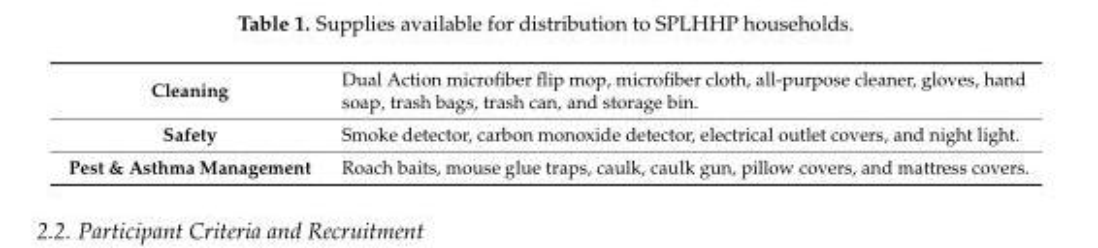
<table><tbody><tr><td>Cleaning</td><td>Dual Action microfiber flip mop, microfiber cloth, all-purpose cleaner, gloves, hand soap, trash bags, trash can, and storage bin.</td></tr><tr><td>Safety</td><td>Smoke detector, carbon monoxide detector, electrical outlet covers, and night light.</td></tr><tr><td>Pest &amp; Asthma Management</td><td>Roach baits, mouse glue traps, caulk, caulk gun, pillow covers, and mattress covers.</td></tr></tbody></table>